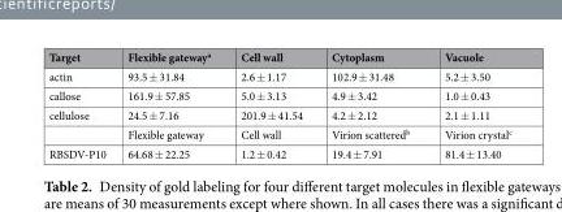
<table><thead><tr><td>Target</td><td>Flexible gateway<sup>a</sup></td><td>Cell wall</td><td>Cytoplasm</td><td>Vacuole</td></tr></thead><tbody><tr><td>actin</td><td>93.5 ± 31.84</td><td>2.6 ± 1.17</td><td>102.9 ± 31.48</td><td>5.2 ± 3.50</td></tr><tr><td>callose</td><td>161.9 ± 57.85</td><td>5.0 ± 3.13</td><td>4.9 ± 3.42</td><td>1.0 ± 0.43</td></tr><tr><td rowspan="2">cellulose</td><td>24.5 ± 7.16</td><td>201.9 ± 41.54</td><td>4.2 ± 2.12</td><td>2.1 ± 1.11</td></tr><tr><td>Flexible gateway</td><td>Cell wall</td><td>Virion scattered<sup>b</sup></td><td>Virion crystal<sup>c</sup></td></tr><tr><td>RBSDV-P10</td><td>64.68 ± 22.25</td><td>1.2 ± 0.42</td><td>19.4 ± 7.91</td><td>81.4 ± 13.40</td></tr></tbody></table>